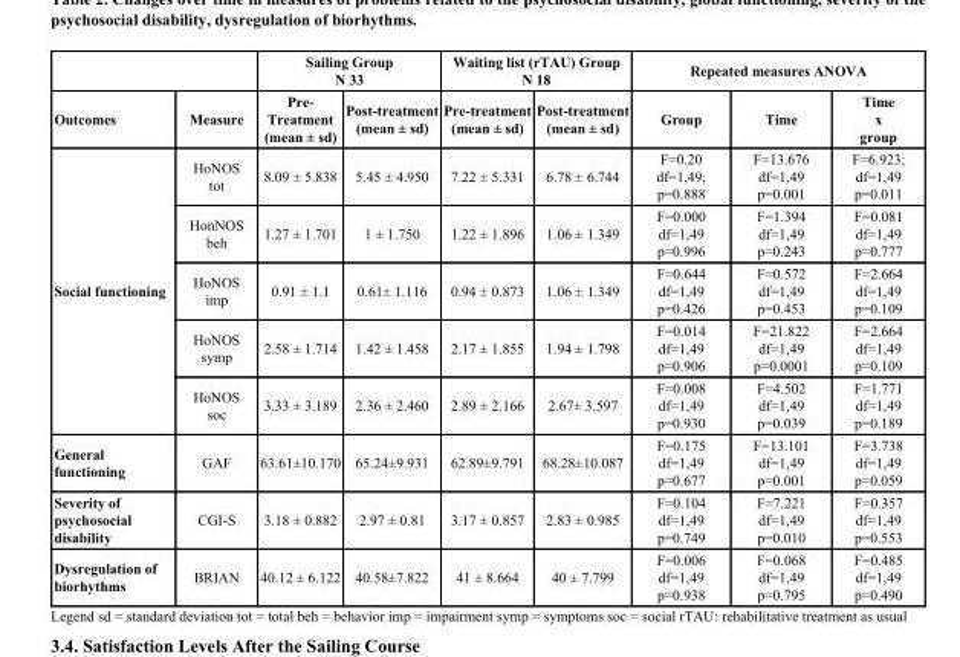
<table><thead><tr><td rowspan="2">Outcomes</td><td rowspan="2">Measure</td><td colspan="2">Sailing Group N 33</td><td colspan="2">Waiting list (rTAU) Group N 18</td><td colspan="3">Repeated measures ANOVA</td></tr><tr><td>Pre- Treatment (mean ± sd)</td><td>Post-treatment (mean ± sd)</td><td>Pre-treatment (mean ± sd)</td><td>Post-treatment (mean ± sd)</td><td>Group</td><td>Time</td><td>Time x group</td></tr></thead><tbody><tr><td rowspan="5">Social functioning</td><td>HoNOS tot</td><td>8.09 ± 5.838</td><td>5.45 ± 4.950</td><td>7.22 ± 5.331</td><td>6.78 ± 6.744</td><td>F=0.20 df=1,49; p=0.888</td><td>F=13.676 df=1,49 p=0.001</td><td>F=6.923; df=1,49 p=0.011</td></tr><tr><td>HonNOS beh</td><td>1.27 ± 1.701</td><td>1 ± 1.750</td><td>1.22 ± 1.896</td><td>1.06 ± 1.349</td><td>F=0.000 df=1,49 p=0.996</td><td>F=1.394 df=1,49 p=0.243</td><td>F=0.081 df=1,49 p=0.777</td></tr><tr><td>HoNOS imp</td><td>0.91 ± 1.1</td><td>0.61± 1.116</td><td>0.94 ± 0.873</td><td>1.06 ± 1.349</td><td>F=0.644 df=1,49 p=0.426</td><td>F=0.572 df=1,49 p=0.453</td><td>F=2.664 df=1,49 p=0.109</td></tr><tr><td>HoNOS symp</td><td>2.58 ± 1.714</td><td>1.42 ± 1.458</td><td>2.17 ± 1.855</td><td>1.94 ± 1.798</td><td>F=0.014 df=1,49 p=0.906</td><td>F=21.822 df=1,49 p=0.0001</td><td>F=2.664 df=1,49 p=0.109</td></tr><tr><td>HoNOS soc</td><td>3.33 ± 3.189</td><td>2.36 ± 2.460</td><td>2.89 ± 2.166</td><td>2.67± 3.597</td><td>F=0.008 df=1,49 p=0.930</td><td>F=4.502 df=1,49 p=0.039</td><td>F=1.771 df=1,49 p=0.189</td></tr><tr><td>General functioning</td><td>GAF</td><td>63.61±10.170</td><td>65.24±9.931</td><td>62.89±9.791</td><td>68.28±10.087</td><td>F=0.175 df=1,49 p=0.677</td><td>F=13.101 df=1,49 p=0.001</td><td>F=3.738 df=1,49 p=0.059</td></tr><tr><td>Severity of psychosocial disability</td><td>CGI-S</td><td>3.18 ± 0.882</td><td>2.97 ± 0.81</td><td>3.17 ± 0.857</td><td>2.83 ± 0.985</td><td>F=0.104 df=1,49 p=0.749</td><td>F=7.221 df=1,49 p=0.010</td><td>F=0.357 df=1,49 p=0.553</td></tr><tr><td>Dysregulation of biorhythms</td><td>BRIAN</td><td>40.12 ± 6.122</td><td>40.58±7.822</td><td>41 ± 8.664</td><td>40 ± 7.799</td><td>F=0.006 df=1,49 p=0.938</td><td>F=0.068 df=1,49 p=0.795</td><td>F=0.485 df=1,49 p=0.490</td></tr></tbody></table>